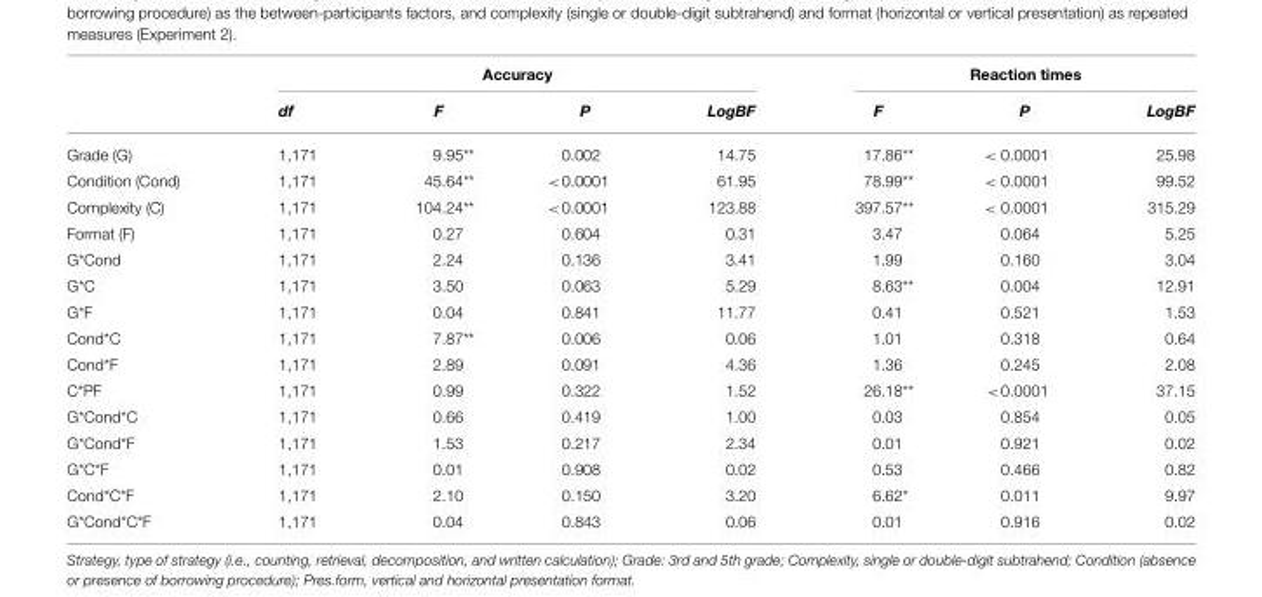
<table><thead><tr><td rowspan="2"></td><td colspan="4">Accuracy</td><td colspan="3">Reaction times</td></tr><tr><td>df</td><td>F</td><td>P</td><td>LogBF</td><td>F</td><td>P</td><td>LogBF</td></tr></thead><tbody><tr><td>Grade (G)</td><td>1,171</td><td>9.95**</td><td>0.002</td><td>14.75</td><td>17.86**</td><td>&lt; 0.0001</td><td>25.98</td></tr><tr><td>Condition (Cond)</td><td>1,171</td><td>45.64**</td><td>&lt;0.0001</td><td>61.95</td><td>78.99**</td><td>&lt; 0.0001</td><td>99.52</td></tr><tr><td>Complexity (C)</td><td>1,171</td><td>104.24**</td><td>&lt;0.0001</td><td>123.88</td><td>397.57**</td><td>&lt; 0.0001</td><td>315.29</td></tr><tr><td>Format (F)</td><td>1,171</td><td>0.27</td><td>0.604</td><td>0.31</td><td>3.47</td><td>0.064</td><td>5.25</td></tr><tr><td>G*Cond</td><td>1,171</td><td>2.24</td><td>0.136</td><td>3.41</td><td>1.99</td><td>0.160</td><td>3.04</td></tr><tr><td>G*C</td><td>1,171</td><td>3.50</td><td>0.063</td><td>5.29</td><td>8.63**</td><td>0.004</td><td>12.91</td></tr><tr><td>G*F</td><td>1,171</td><td>0.04</td><td>0.841</td><td>11.77</td><td>0.41</td><td>0.521</td><td>1.53</td></tr><tr><td>Cond*C</td><td>1,171</td><td>7.87**</td><td>0.006</td><td>0.06</td><td>1.01</td><td>0.318</td><td>0.64</td></tr><tr><td>Cond*F</td><td>1,171</td><td>2.89</td><td>0.091</td><td>4.36</td><td>1.36</td><td>0.245</td><td>2.08</td></tr><tr><td>C*PF</td><td>1,171</td><td>0.99</td><td>0.322</td><td>1.52</td><td>26.18**</td><td>&lt;0.0001</td><td>37.15</td></tr><tr><td>G*Cond*C</td><td>1,171</td><td>0.66</td><td>0.419</td><td>1.00</td><td>0.03</td><td>0.854</td><td>0.05</td></tr><tr><td>G*Cond*F</td><td>1,171</td><td>1.53</td><td>0.217</td><td>2.34</td><td>0.01</td><td>0.921</td><td>0.02</td></tr><tr><td>G*C*F</td><td>1,171</td><td>0.01</td><td>0.908</td><td>0.02</td><td>0.53</td><td>0.466</td><td>0.82</td></tr><tr><td>Cond*C*F</td><td>1,171</td><td>2.10</td><td>0.150</td><td>3.20</td><td>6.62*</td><td>0.011</td><td>9.97</td></tr><tr><td>G*Cond*C*F</td><td>1,171</td><td>0.04</td><td>0.843</td><td>0.06</td><td>0.01</td><td>0.916</td><td>0.02</td></tr></tbody></table>